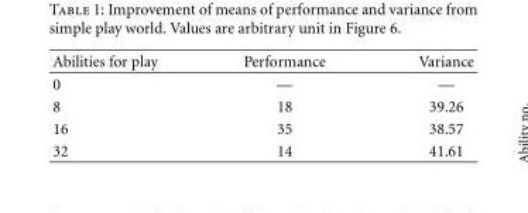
<table><thead><tr><td>Abilities for play</td><td>Performance</td><td>Variance</td></tr></thead><tbody><tr><td>0</td><td>—</td><td>—</td></tr><tr><td>8</td><td>18</td><td>39.26</td></tr><tr><td>16</td><td>35</td><td>38.57</td></tr><tr><td>32</td><td>14</td><td>41.61</td></tr></tbody></table>